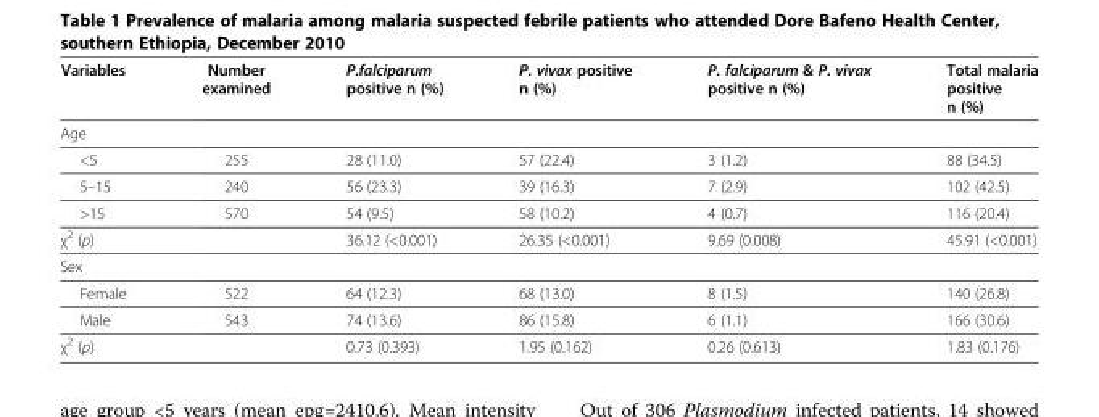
<table><thead><tr><td>Variables</td><td>Number examined</td><td>P.falciparum positive n (%)</td><td>P. vivax positive n (%)</td><td>P. falciparum &amp; P. vivax positive n (%)</td><td>Total malaria positive n (%)</td></tr></thead><tbody><tr><td colspan="6">Age</td></tr><tr><td>&lt;5</td><td>255</td><td>28 (11.0)</td><td>57 (22.4)</td><td>3 (1.2)</td><td>88 (34.5)</td></tr><tr><td>5–15</td><td>240</td><td>56 (23.3)</td><td>39 (16.3)</td><td>7 (2.9)</td><td>102 (42.5)</td></tr><tr><td>&gt;15</td><td>570</td><td>54 (9.5)</td><td>58 (10.2)</td><td>4 (0.7)</td><td>116 (20.4)</td></tr><tr><td>χ<sup>2</sup> (p)</td><td></td><td>36.12 (&lt;0.001)</td><td>26.35 (&lt;0.001)</td><td>9.69 (0.008)</td><td>45.91 (&lt;0.001)</td></tr><tr><td colspan="6">Sex</td></tr><tr><td>Female</td><td>522</td><td>64 (12.3)</td><td>68 (13.0)</td><td>8 (1.5)</td><td>140 (26.8)</td></tr><tr><td>Male</td><td>543</td><td>74 (13.6)</td><td>86 (15.8)</td><td>6 (1.1)</td><td>166 (30.6)</td></tr><tr><td>χ<sup>2</sup> (p)</td><td></td><td>0.73 (0.393)</td><td>1.95 (0.162)</td><td>0.26 (0.613)</td><td>1.83 (0.176)</td></tr></tbody></table>